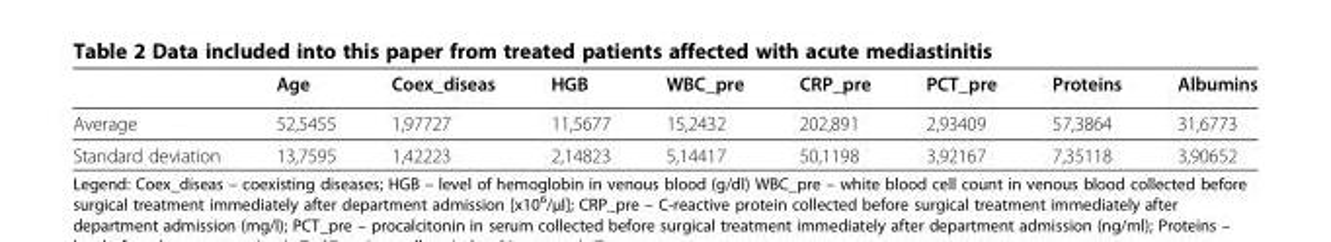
<table><thead><tr><td></td><td>Age</td><td>Coex_diseas</td><td>HGB</td><td>WBC_pre</td><td>CRP_pre</td><td>PCT_pre</td><td>Proteins</td><td>Albumins</td></tr></thead><tbody><tr><td>Average</td><td>52,5455</td><td>1,97727</td><td>11,5677</td><td>15,2432</td><td>202,891</td><td>2,93409</td><td>57,3864</td><td>31,6773</td></tr><tr><td>Standard deviation</td><td>13,7595</td><td>1,42223</td><td>2,14823</td><td>5,14417</td><td>50,1198</td><td>3,92167</td><td>7,35118</td><td>3,90652</td></tr></tbody></table>